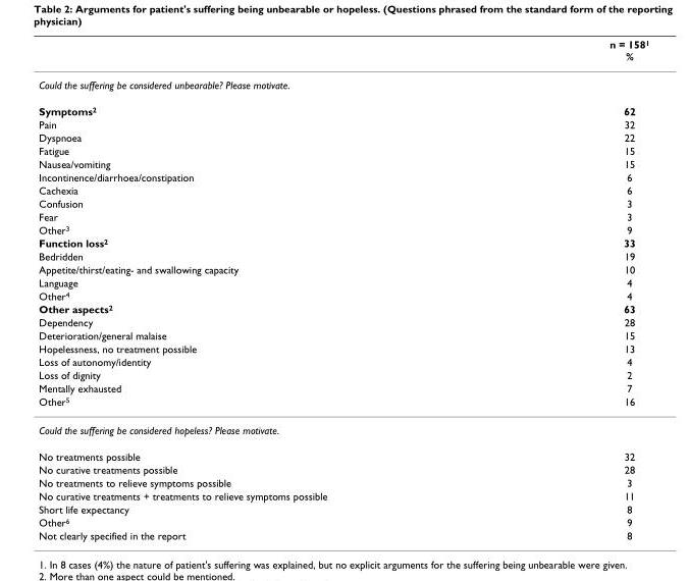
<table><thead><tr><td></td><td>n = 158<sup>1</sup> %</td></tr></thead><tbody><tr><td colspan="2">Could the suffering be considered unbearable? Please motivate.</td></tr><tr><td>Symptoms<sup>2</sup></td><td>62</td></tr><tr><td>Pain</td><td>32</td></tr><tr><td>Dyspnoea</td><td>22</td></tr><tr><td>Fatigue</td><td>15</td></tr><tr><td>Nausea/vomiting</td><td>15</td></tr><tr><td>Incontinence/diarrhoea/constipation</td><td>6</td></tr><tr><td>Cachexia</td><td>6</td></tr><tr><td>Confusion</td><td>3</td></tr><tr><td>Fear</td><td>3</td></tr><tr><td>Other<sup>3</sup></td><td>9</td></tr><tr><td>Function loss<sup>2</sup></td><td>33</td></tr><tr><td>Bedridden</td><td>19</td></tr><tr><td>Appetite/thirst/eating- and swallowing capacity</td><td>10</td></tr><tr><td>Language</td><td>4</td></tr><tr><td>Other<sup>4</sup></td><td>4</td></tr><tr><td>Other aspects<sup>2</sup></td><td>63</td></tr><tr><td>Dependency</td><td>28</td></tr><tr><td>Deterioration/general malaise</td><td>15</td></tr><tr><td>Hopelessness, no treatment possible</td><td>13</td></tr><tr><td>Loss of autonomy/identity</td><td>4</td></tr><tr><td>Loss of dignity</td><td>2</td></tr><tr><td>Mentally exhausted</td><td>7</td></tr><tr><td>Other<sup>5</sup></td><td>16</td></tr><tr><td colspan="2">Could the suffering be considered hopeless? Please motivate.</td></tr><tr><td>No treatments possible</td><td>32</td></tr><tr><td>No curative treatments possible</td><td>28</td></tr><tr><td>No treatments to relieve symptoms possible</td><td>3</td></tr><tr><td>No curative treatments + treatments to relieve symptoms possible</td><td>11</td></tr><tr><td>Short life expectancy</td><td>8</td></tr><tr><td>Other<sup>6</sup></td><td>9</td></tr><tr><td>Not clearly specified in the report</td><td>8</td></tr></tbody></table>